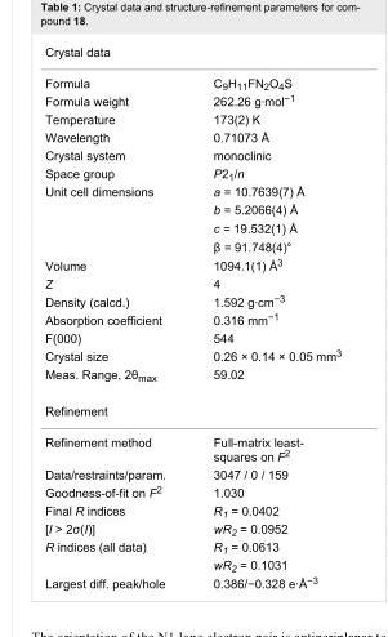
<table><tbody><tr><td colspan="2">Crystal data</td></tr><tr><td>Formula</td><td>C<sub>9</sub>H<sub>11</sub>FN<sub>2</sub>O<sub>4</sub>S</td></tr><tr><td>Formula weight</td><td>262.26 g·mol<sup>−1</sup></td></tr><tr><td>Temperature</td><td>173(2) K</td></tr><tr><td>Wavelength</td><td>0.71073 Å</td></tr><tr><td>Crystal system</td><td>monoclinic</td></tr><tr><td>Space group</td><td>P2<sub>1</sub>/n</td></tr><tr><td rowspan="4">Unit cell dimensions</td><td>a = 10.7639(7) Å</td></tr><tr><td>b = 5.2066(4) Å</td></tr><tr><td>c = 19.532(1) Å</td></tr><tr><td>β = 91.748(4)°</td></tr><tr><td>Volume</td><td>1094.1(1) Å<sup>3</sup></td></tr><tr><td>Z</td><td>4</td></tr><tr><td>Density (calcd.)</td><td>1.592 g·cm<sup>−3</sup></td></tr><tr><td>Absorption coefficient</td><td>0.316 mm<sup>−1</sup></td></tr><tr><td>F(000)</td><td>544</td></tr><tr><td>Crystal size</td><td>0.26 × 0.14 × 0.05 mm<sup>3</sup></td></tr><tr><td>Meas. Range, 2θ<sub>max</sub></td><td>59.02</td></tr><tr><td colspan="2">Refinement</td></tr><tr><td>Refinement method</td><td>Full-matrix least- squares on F<sup>2</sup></td></tr><tr><td>Data/restraints/param.</td><td>3047 / 0 / 159</td></tr><tr><td>Goodness-of-fit on F<sup>2</sup></td><td>1.030</td></tr><tr><td>Final R indices</td><td>R<sub>1</sub> = 0.0402</td></tr><tr><td>[I &gt; 2σ(I)]</td><td>wR<sub>2</sub> = 0.0952</td></tr><tr><td rowspan="2">R indices (all data)</td><td>R<sub>1</sub> = 0.0613</td></tr><tr><td>wR<sub>2</sub> = 0.1031</td></tr><tr><td>Largest diff. peak/hole</td><td>0.386/−0.328 e·Å<sup>−3</sup></td></tr></tbody></table>